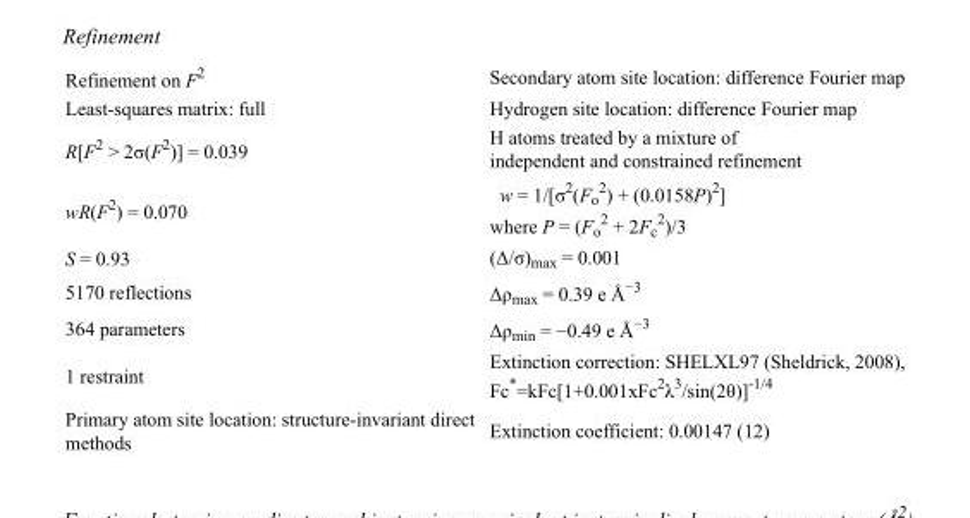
<table><tbody><tr><td>Refinement on F<sup>2</sup></td><td>Secondary atom site location: difference Fourier map</td></tr><tr><td>Least-squares matrix: full</td><td>Hydrogen site location: difference Fourier map</td></tr><tr><td>R[F<sup>2</sup> &gt; 2σ(F<sup>2</sup>)] = 0.039</td><td>H atoms treated by a mixture of independent and constrained refinement</td></tr><tr><td>wR(F<sup>2</sup>) = 0.070</td><td>w = 1/[σ<sup>2</sup>(F<sub>o</sub> <sup>2</sup>) + (0.0158P)<sup>2</sup>] where P = (F<sub>o</sub> <sup>2</sup> + 2F<sub>c</sub> <sup>2</sup>)/3</td></tr><tr><td>S = 0.93</td><td>(Δ/σ)<sub>max</sub> = 0.001</td></tr><tr><td>5170 reflections</td><td>Δρ<sub>max</sub> = 0.39 e Å<sup>−3</sup></td></tr><tr><td>364 parameters</td><td>Δρ<sub>min</sub> = −0.49 e Å<sup>−3</sup></td></tr><tr><td>1 restraint</td><td>Extinction correction: SHELXL97 (Sheldrick, 2008), Fc*=kFc[1+0.001xFc<sup>2</sup>λ<sup>3</sup>/sin(2θ)]<sup>-1/4</sup></td></tr><tr><td>Primary atom site location: structure-invariant direct methods</td><td>Extinction coefficient: 0.00147 (12)</td></tr></tbody></table>